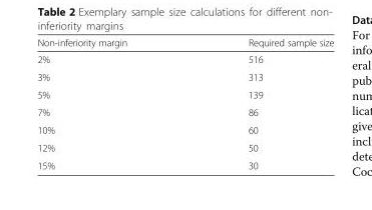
<table><thead><tr><td>Non-inferiority margin</td><td>Required sample size</td></tr></thead><tbody><tr><td>2%</td><td>516</td></tr><tr><td>3%</td><td>313</td></tr><tr><td>5%</td><td>139</td></tr><tr><td>7%</td><td>86</td></tr><tr><td>10%</td><td>60</td></tr><tr><td>12%</td><td>50</td></tr><tr><td>15%</td><td>30</td></tr></tbody></table>